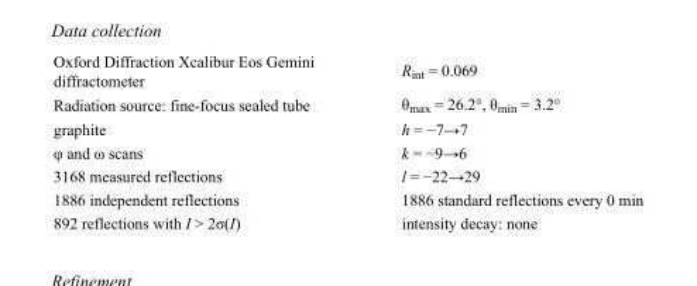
<table><tbody><tr><td>Oxford Diffraction Xcalibur Eos Gemini diffractometer</td><td>R<sub>int</sub> = 0.069</td></tr><tr><td>Radiation source: fine-focus sealed tube</td><td>θ<sub>max</sub> = 26.2°, θ<sub>min</sub> = 3.2°</td></tr><tr><td>graphite</td><td>h = −7→7</td></tr><tr><td>φ and ω scans</td><td>k = −9→6</td></tr><tr><td>3168 measured reflections</td><td>l = −22→29</td></tr><tr><td>1886 independent reflections</td><td>1886 standard reflections every 0 min</td></tr><tr><td>892 reflections with I &gt; 2σ(I)</td><td>intensity decay: none</td></tr></tbody></table>